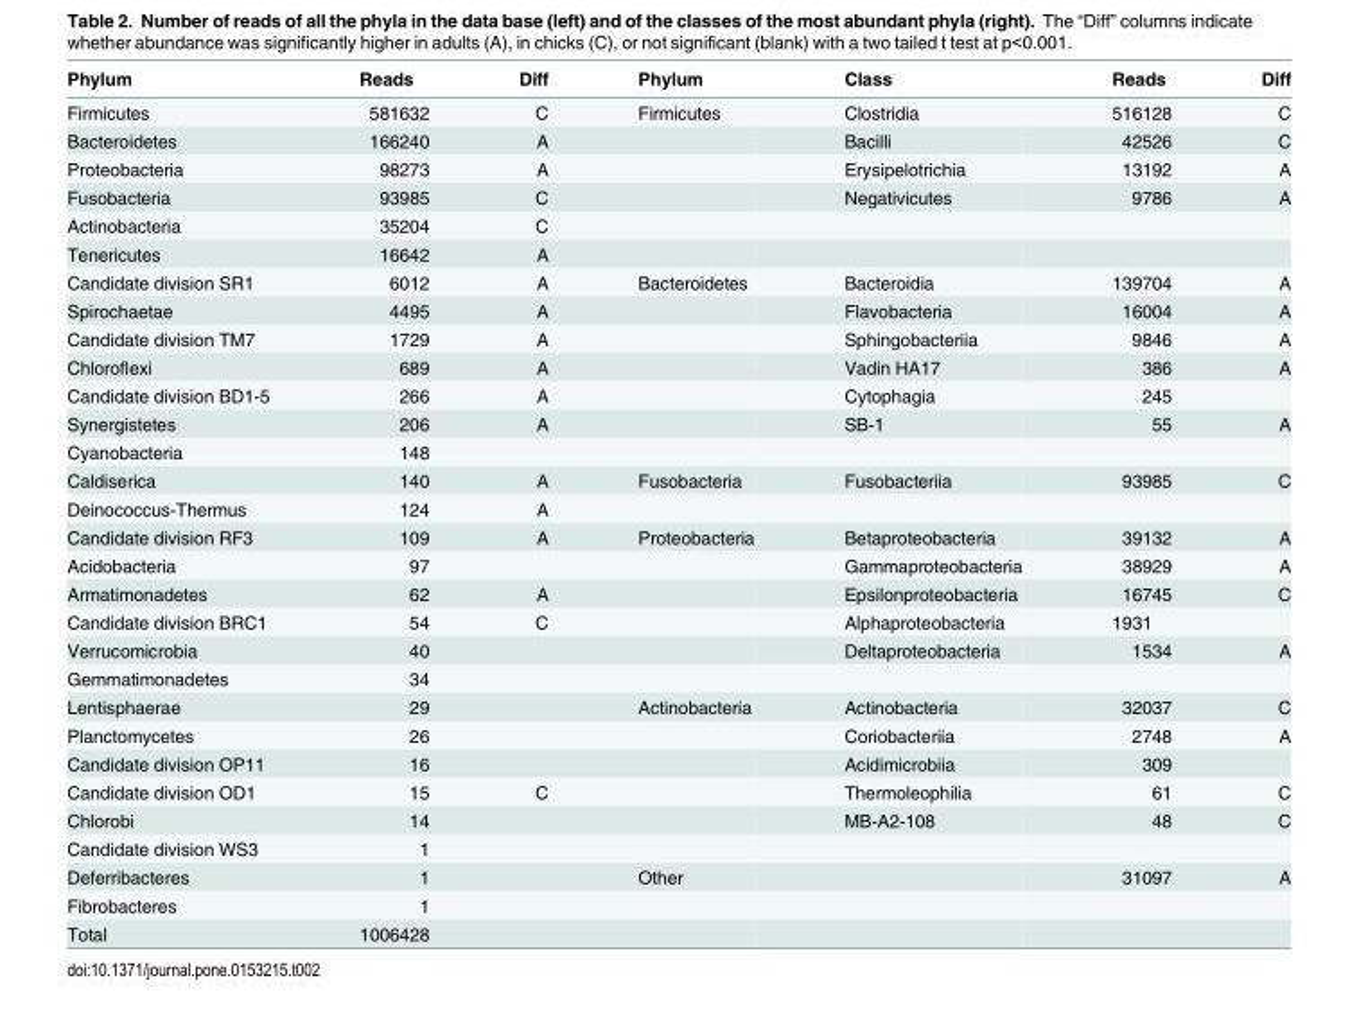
<table><thead><tr><td>Phylum</td><td>Reads</td><td>Diff</td><td>Phylum</td><td>Class</td><td>Reads</td><td>Diff</td></tr></thead><tbody><tr><td>Firmicutes</td><td>581632</td><td>C</td><td>Firmicutes</td><td>Clostridia</td><td>516128</td><td>C</td></tr><tr><td>Bacteroidetes</td><td>166240</td><td>A</td><td></td><td>Bacilli</td><td>42526</td><td>C</td></tr><tr><td>Proteobacteria</td><td>98273</td><td>A</td><td></td><td>Erysipelotrichia</td><td>13192</td><td>A</td></tr><tr><td>Fusobacteria</td><td>93985</td><td>C</td><td></td><td>Negativicutes</td><td>9786</td><td>A</td></tr><tr><td>Actinobacteria</td><td>35204</td><td>C</td><td></td><td></td><td></td><td></td></tr><tr><td>Tenericutes</td><td>16642</td><td>A</td><td></td><td></td><td></td><td></td></tr><tr><td>Candidate division SR1</td><td>6012</td><td>A</td><td>Bacteroidetes</td><td>Bacteroidia</td><td>139704</td><td>A</td></tr><tr><td>Spirochaetae</td><td>4495</td><td>A</td><td></td><td>Flavobacteria</td><td>16004</td><td>A</td></tr><tr><td>Candidate division TM7</td><td>1729</td><td>A</td><td></td><td>Sphingobacteriia</td><td>9846</td><td>A</td></tr><tr><td>Chloroflexi</td><td>689</td><td>A</td><td></td><td>Vadin HA17</td><td>386</td><td>A</td></tr><tr><td>Candidate division BD1-5</td><td>266</td><td>A</td><td></td><td>Cytophagia</td><td>245</td><td></td></tr><tr><td>Synergistetes</td><td>206</td><td>A</td><td></td><td>SB-1</td><td>55</td><td>A</td></tr><tr><td>Cyanobacteria</td><td>148</td><td></td><td></td><td></td><td></td><td></td></tr><tr><td>Caldiserica</td><td>140</td><td>A</td><td>Fusobacteria</td><td>Fusobacteriia</td><td>93985</td><td>C</td></tr><tr><td>Deinococcus-Thermus</td><td>124</td><td>A</td><td></td><td></td><td></td><td></td></tr><tr><td>Candidate division RF3</td><td>109</td><td>A</td><td>Proteobacteria</td><td>Betaproteobacteria</td><td>39132</td><td>A</td></tr><tr><td>Acidobacteria</td><td>97</td><td></td><td></td><td>Gammaproteobacteria</td><td>38929</td><td>A</td></tr><tr><td>Armatimonadetes</td><td>62</td><td>A</td><td></td><td>Epsilonproteobacteria</td><td>16745</td><td>C</td></tr><tr><td>Candidate division BRC1</td><td>54</td><td>C</td><td></td><td>Alphaproteobacteria</td><td>1931</td><td></td></tr><tr><td>Verrucomicrobia</td><td>40</td><td></td><td></td><td>Deltaproteobacteria</td><td>1534</td><td>A</td></tr><tr><td>Gemmatimonadetes</td><td>34</td><td></td><td></td><td></td><td></td><td></td></tr><tr><td>Lentisphaerae</td><td>29</td><td></td><td>Actinobacteria</td><td>Actinobacteria</td><td>32037</td><td>C</td></tr><tr><td>Planctomycetes</td><td>26</td><td></td><td></td><td>Coriobacteriia</td><td>2748</td><td>A</td></tr><tr><td>Candidate division OP11</td><td>16</td><td></td><td></td><td>Acidimicrobiia</td><td>309</td><td></td></tr><tr><td>Candidate division OD1</td><td>15</td><td>C</td><td></td><td>Thermoleophilia</td><td>61</td><td>C</td></tr><tr><td>Chlorobi</td><td>14</td><td></td><td></td><td>MB-A2-108</td><td>48</td><td>C</td></tr><tr><td>Candidate division WS3</td><td>1</td><td></td><td></td><td></td><td></td><td></td></tr><tr><td>Deferribacteres</td><td>1</td><td></td><td>Other</td><td></td><td>31097</td><td>A</td></tr><tr><td>Fibrobacteres</td><td>1</td><td></td><td></td><td></td><td></td><td></td></tr><tr><td>Total</td><td>1006428</td><td></td><td></td><td></td><td></td><td></td></tr></tbody></table>